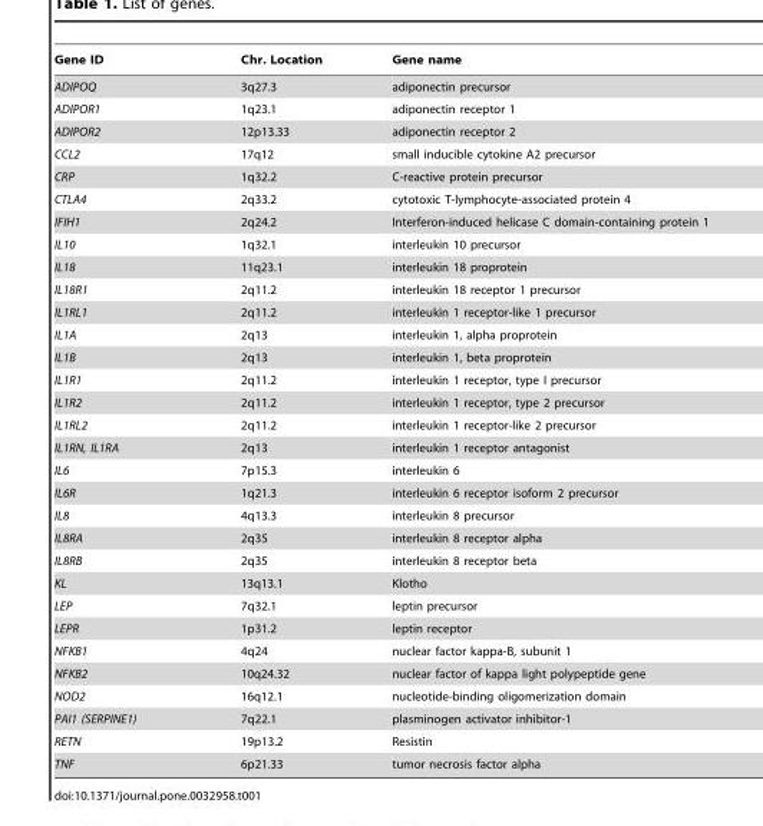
<table><thead><tr><td>Gene ID</td><td>Chr. Location</td><td>Gene name</td></tr></thead><tbody><tr><td>ADIPOQ</td><td>3q27.3</td><td>adiponectin precursor</td></tr><tr><td>ADIPOR1</td><td>1q23.1</td><td>adiponectin receptor 1</td></tr><tr><td>ADIPOR2</td><td>12p13.33</td><td>adiponectin receptor 2</td></tr><tr><td>CCL2</td><td>17q12</td><td>small inducible cytokine A2 precursor</td></tr><tr><td>CRP</td><td>1q32.2</td><td>C-reactive protein precursor</td></tr><tr><td>CTLA4</td><td>2q33.2</td><td>cytotoxic T-lymphocyte-associated protein 4</td></tr><tr><td>IFIH1</td><td>2q24.2</td><td>Interferon-induced helicase C domain-containing protein 1</td></tr><tr><td>IL10</td><td>1q32.1</td><td>interleukin 10 precursor</td></tr><tr><td>IL18</td><td>11q23.1</td><td>interleukin 18 proprotein</td></tr><tr><td>IL18R1</td><td>2q11.2</td><td>interleukin 18 receptor 1 precursor</td></tr><tr><td>IL1RL1</td><td>2q11.2</td><td>interleukin 1 receptor-like 1 precursor</td></tr><tr><td>IL1A</td><td>2q13</td><td>interleukin 1, alpha proprotein</td></tr><tr><td>IL1B</td><td>2q13</td><td>interleukin 1, beta proprotein</td></tr><tr><td>IL1R1</td><td>2q11.2</td><td>interleukin 1 receptor, type I precursor</td></tr><tr><td>IL1R2</td><td>2q11.2</td><td>interleukin 1 receptor, type 2 precursor</td></tr><tr><td>IL1RL2</td><td>2q11.2</td><td>interleukin 1 receptor-like 2 precursor</td></tr><tr><td>IL1RN, IL1RA</td><td>2q13</td><td>interleukin 1 receptor antagonist</td></tr><tr><td>IL6</td><td>7p15.3</td><td>interleukin 6</td></tr><tr><td>IL6R</td><td>1q21.3</td><td>interleukin 6 receptor isoform 2 precursor</td></tr><tr><td>IL8</td><td>4q13.3</td><td>interleukin 8 precursor</td></tr><tr><td>IL8RA</td><td>2q35</td><td>interleukin 8 receptor alpha</td></tr><tr><td>IL8RB</td><td>2q35</td><td>interleukin 8 receptor beta</td></tr><tr><td>KL</td><td>13q13.1</td><td>Klotho</td></tr><tr><td>LEP</td><td>7q32.1</td><td>leptin precursor</td></tr><tr><td>LEPR</td><td>1p31.2</td><td>leptin receptor</td></tr><tr><td>NFKB1</td><td>4q24</td><td>nuclear factor kappa-B, subunit 1</td></tr><tr><td>NFKB2</td><td>10q24.32</td><td>nuclear factor of kappa light polypeptide gene</td></tr><tr><td>NOD2</td><td>16q12.1</td><td>nucleotide-binding oligomerization domain</td></tr><tr><td>PAI1 (SERPINE1)</td><td>7q22.1</td><td>plasminogen activator inhibitor-1</td></tr><tr><td>RETN</td><td>19p13.2</td><td>Resistin</td></tr><tr><td>TNF</td><td>6p21.33</td><td>tumor necrosis factor alpha</td></tr></tbody></table>